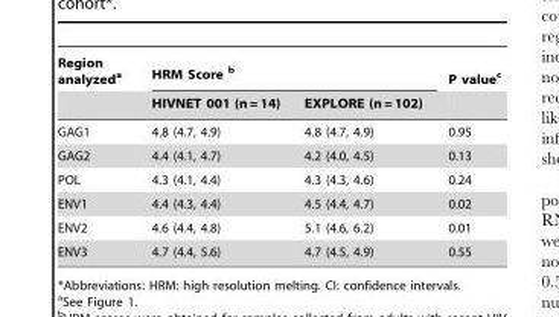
<table><thead><tr><td rowspan="2">Region analyzed<sup>a</sup></td><td colspan="2">HRM Score b</td><td rowspan="2">P value<sup>c</sup></td></tr><tr><td>HIVNET 001 (n = 14)</td><td>EXPLORE (n = 102)</td></tr></thead><tbody><tr><td>GAG1</td><td>4.8 (4.7, 4.9)</td><td>4.8 (4.7, 4.9)</td><td>0.95</td></tr><tr><td>GAG2</td><td>4.4 (4.1, 4.7)</td><td>4.2 (4.0, 4.5)</td><td>0.13</td></tr><tr><td>POL</td><td>4.3 (4.1, 4.4)</td><td>4.3 (4.3, 4.6)</td><td>0.24</td></tr><tr><td>ENV1</td><td>4.4 (4.3, 4.4)</td><td>4.5 (4.4, 4.7)</td><td>0.02</td></tr><tr><td>ENV2</td><td>4.6 (4.4, 4.8)</td><td>5.1 (4.6, 6.2)</td><td>0.01</td></tr><tr><td>ENV3</td><td>4.7 (4.4, 5.6)</td><td>4.7 (4.5, 4.9)</td><td>0.55</td></tr></tbody></table>